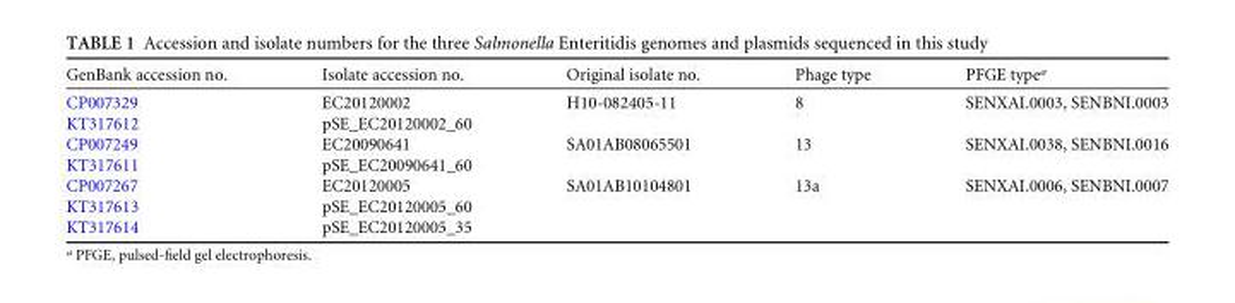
<table><thead><tr><td>GenBank accession no.</td><td>Isolate accession no.</td><td>Original isolate no.</td><td>Phage type</td><td>PFGE type<sup>a</sup></td></tr></thead><tbody><tr><td>CP007329</td><td>EC20120002</td><td>H10-082405-11</td><td>8</td><td>SENXAI.0003, SENBNI.0003</td></tr><tr><td>KT317612</td><td>pSE_EC20120002_60</td><td></td><td></td><td></td></tr><tr><td>CP007249</td><td>EC20090641</td><td>SA01AB08065501</td><td>13</td><td>SENXAI.0038, SENBNI.0016</td></tr><tr><td>KT317611</td><td>pSE_EC20090641_60</td><td></td><td></td><td></td></tr><tr><td>CP007267</td><td>EC20120005</td><td>SA01AB10104801</td><td>13a</td><td>SENXAI.0006, SENBNI.0007</td></tr><tr><td>KT317613</td><td>pSE_EC20120005_60</td><td></td><td></td><td></td></tr><tr><td>KT317614</td><td>pSE_EC20120005_35</td><td></td><td></td><td></td></tr></tbody></table>